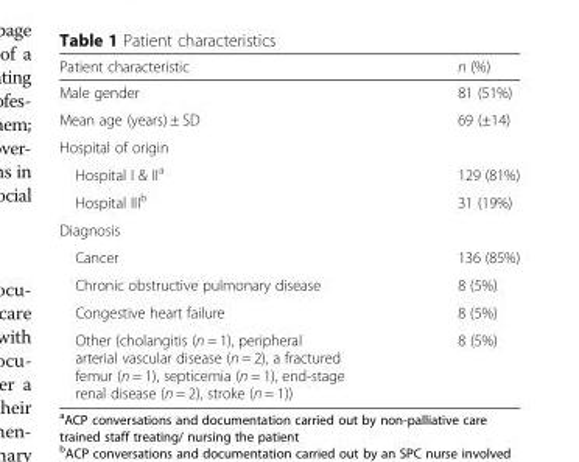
<table><thead><tr><td>Patient characteristic</td><td>n (%)</td></tr></thead><tbody><tr><td>Male gender</td><td>81 (51%)</td></tr><tr><td>Mean age (years) ± SD</td><td>69 (±14)</td></tr><tr><td colspan="2">Hospital of origin</td></tr><tr><td>Hospital I &amp; II<sup>a</sup></td><td>129 (81%)</td></tr><tr><td>Hospital III<sup>b</sup></td><td>31 (19%)</td></tr><tr><td colspan="2">Diagnosis</td></tr><tr><td>Cancer</td><td>136 (85%)</td></tr><tr><td>Chronic obstructive pulmonary disease</td><td>8 (5%)</td></tr><tr><td>Congestive heart failure</td><td>8 (5%)</td></tr><tr><td>Other (cholangitis (n = 1), peripheral arterial vascular disease (n = 2), a fractured femur (n = 1), septicemia (n = 1), end-stage renal disease (n = 2), stroke (n = 1))</td><td>8 (5%)</td></tr></tbody></table>